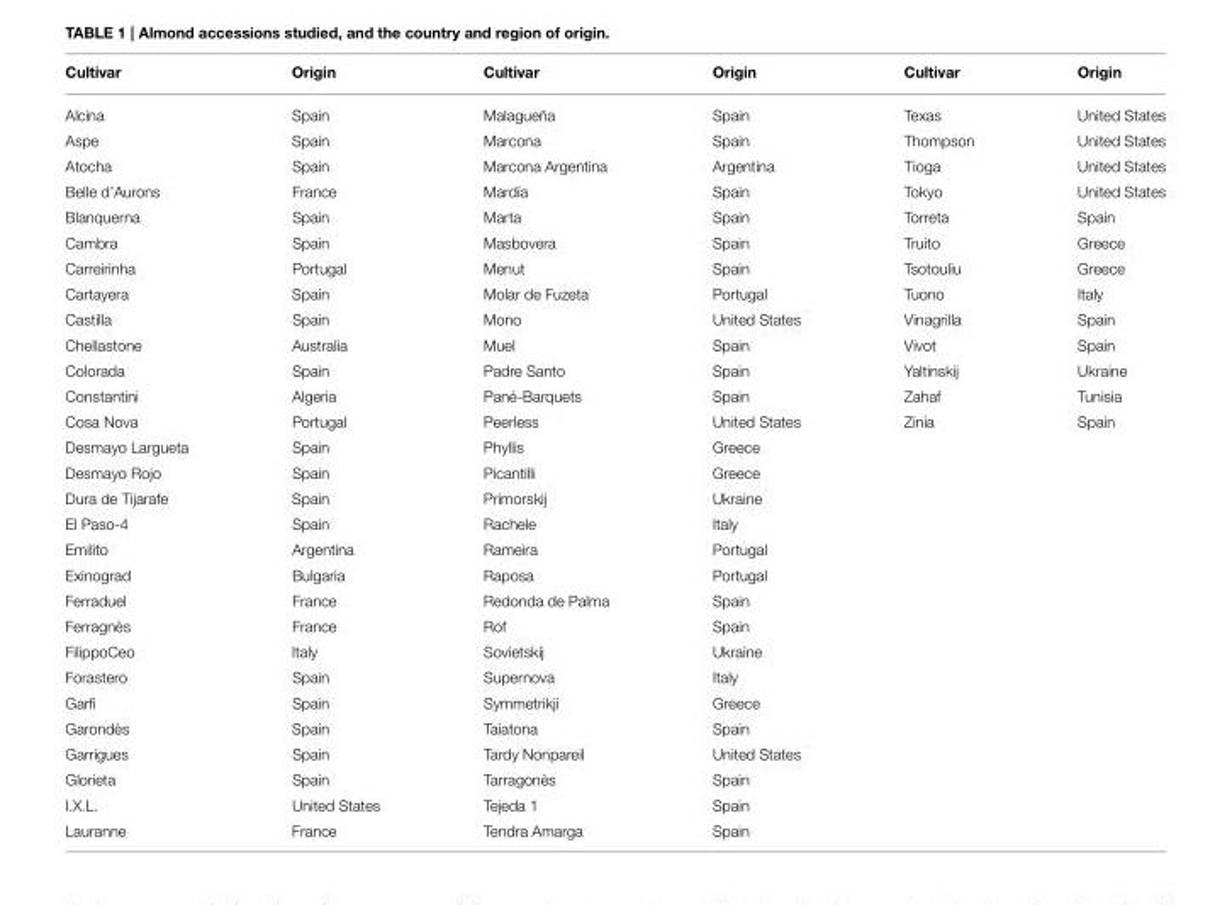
<table><thead><tr><td>Cultivar</td><td>Origin</td><td>Cultivar</td><td>Origin</td><td>Cultivar</td><td>Origin</td></tr></thead><tbody><tr><td>Alcina</td><td>Spain</td><td>Malagueña</td><td>Spain</td><td>Texas</td><td>United States</td></tr><tr><td>Aspe</td><td>Spain</td><td>Marcona</td><td>Spain</td><td>Thompson</td><td>United States</td></tr><tr><td>Atocha</td><td>Spain</td><td>Marcona Argentina</td><td>Argentina</td><td>Tioga</td><td>United States</td></tr><tr><td>Belle d’Aurons</td><td>France</td><td>Mardía</td><td>Spain</td><td>Tokyo</td><td>United States</td></tr><tr><td>Blanquerna</td><td>Spain</td><td>Marta</td><td>Spain</td><td>Torreta</td><td>Spain</td></tr><tr><td>Cambra</td><td>Spain</td><td>Masbovera</td><td>Spain</td><td>Truito</td><td>Greece</td></tr><tr><td>Carreirinha</td><td>Portugal</td><td>Menut</td><td>Spain</td><td>Tsotouliu</td><td>Greece</td></tr><tr><td>Cartayera</td><td>Spain</td><td>Molar de Fuzeta</td><td>Portugal</td><td>Tuono</td><td>Italy</td></tr><tr><td>Castilla</td><td>Spain</td><td>Mono</td><td>United States</td><td>Vinagrilla</td><td>Spain</td></tr><tr><td>Chellastone</td><td>Australia</td><td>Muel</td><td>Spain</td><td>Vivot</td><td>Spain</td></tr><tr><td>Colorada</td><td>Spain</td><td>Padre Santo</td><td>Spain</td><td>Yaltinskij</td><td>Ukraine</td></tr><tr><td>Constantini</td><td>Algeria</td><td>Pané-Barquets</td><td>Spain</td><td>Zahaf</td><td>Tunisia</td></tr><tr><td>Cosa Nova</td><td>Portugal</td><td>Peerless</td><td>United States</td><td>Zinia</td><td>Spain</td></tr><tr><td>Desmayo Largueta</td><td>Spain</td><td>Phyllis</td><td>Greece</td><td></td><td></td></tr><tr><td>Desmayo Rojo</td><td>Spain</td><td>Picantilli</td><td>Greece</td><td></td><td></td></tr><tr><td>Dura de Tijarafe</td><td>Spain</td><td>Primorskij</td><td>Ukraine</td><td></td><td></td></tr><tr><td>El Paso-4</td><td>Spain</td><td>Rachele</td><td>Italy</td><td></td><td></td></tr><tr><td>Emilito</td><td>Argentina</td><td>Rameira</td><td>Portugal</td><td></td><td></td></tr><tr><td>Exinograd</td><td>Bulgaria</td><td>Raposa</td><td>Portugal</td><td></td><td></td></tr><tr><td>Ferraduel</td><td>France</td><td>Redonda de Palma</td><td>Spain</td><td></td><td></td></tr><tr><td>Ferragnès</td><td>France</td><td>Rof</td><td>Spain</td><td></td><td></td></tr><tr><td>FilippoCeo</td><td>Italy</td><td>Sovietskij</td><td>Ukraine</td><td></td><td></td></tr><tr><td>Forastero</td><td>Spain</td><td>Supernova</td><td>Italy</td><td></td><td></td></tr><tr><td>Garfi</td><td>Spain</td><td>Symmetrikji</td><td>Greece</td><td></td><td></td></tr><tr><td>Garondès</td><td>Spain</td><td>Taiatona</td><td>Spain</td><td></td><td></td></tr><tr><td>Garrigues</td><td>Spain</td><td>Tardy Nonpareil</td><td>United States</td><td></td><td></td></tr><tr><td>Glorieta</td><td>Spain</td><td>Tarragonès</td><td>Spain</td><td></td><td></td></tr><tr><td>I.X.L.</td><td>United States</td><td>Tejeda 1</td><td>Spain</td><td></td><td></td></tr><tr><td>Lauranne</td><td>France</td><td>Tendra Amarga</td><td>Spain</td><td></td><td></td></tr></tbody></table>